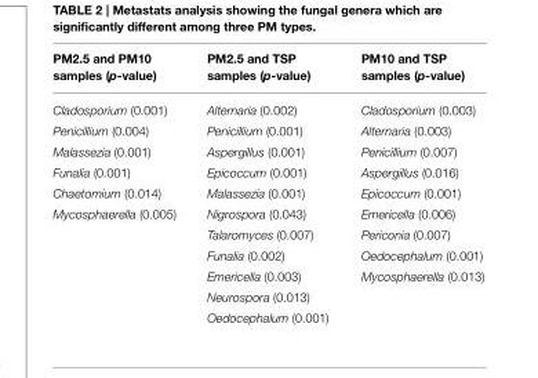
<table><thead><tr><td>PM2.5 and PM10 samples (p-value)</td><td>PM2.5 and TSP samples (p-value)</td><td>PM10 and TSP samples (p-value)</td></tr></thead><tbody><tr><td>Cladosporium (0.001)</td><td>Alternaria (0.002)</td><td>Cladosporium (0.003)</td></tr><tr><td>Penicillium (0.004)</td><td>Penicillium (0.001)</td><td>Alternaria (0.003)</td></tr><tr><td>Malassezia (0.001)</td><td>Aspergillus (0.001)</td><td>Penicillium (0.007)</td></tr><tr><td>Funalia (0.001)</td><td>Epicoccum (0.001)</td><td>Aspergillus (0.016)</td></tr><tr><td>Chaetomium (0.014)</td><td>Malassezia (0.001)</td><td>Epicoccum (0.001)</td></tr><tr><td rowspan="6">Mycosphaerella (0.005)</td><td>Nigrospora (0.043)</td><td>Emericella (0.006)</td></tr><tr><td>Talaromyces (0.007)</td><td>Periconia (0.007)</td></tr><tr><td>Funalia (0.002)</td><td>Oedocephalum (0.001)</td></tr><tr><td>Emericella (0.003)</td><td>Mycosphaerella (0.013)</td></tr><tr><td>Neurospora (0.013)</td><td></td></tr><tr><td>Oedocephalum (0.001)</td><td></td></tr></tbody></table>